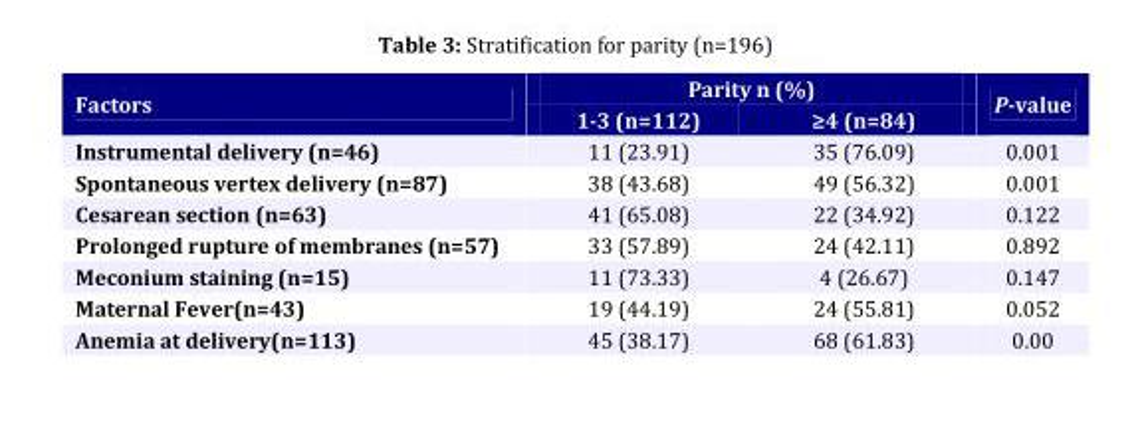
<table><thead><tr><td rowspan="2">Factors</td><td colspan="2">Parity n (%)</td><td rowspan="2">P-value</td></tr><tr><td>1-3 (n=112)</td><td>≥4 (n=84)</td></tr></thead><tbody><tr><td>Instrumental delivery (n=46)</td><td>11 (23.91)</td><td>35 (76.09)</td><td>0.001</td></tr><tr><td>Spontaneous vertex delivery (n=87)</td><td>38 (43.68)</td><td>49 (56.32)</td><td>0.001</td></tr><tr><td>Cesarean section (n=63)</td><td>41 (65.08)</td><td>22 (34.92)</td><td>0.122</td></tr><tr><td>Prolonged rupture of membranes (n=57)</td><td>33 (57.89)</td><td>24 (42.11)</td><td>0.892</td></tr><tr><td>Meconium staining (n=15)</td><td>11 (73.33)</td><td>4 (26.67)</td><td>0.147</td></tr><tr><td>Maternal Fever(n=43)</td><td>19 (44.19)</td><td>24 (55.81)</td><td>0.052</td></tr><tr><td>Anemia at delivery(n=113)</td><td>45 (38.17)</td><td>68 (61.83)</td><td>0.00</td></tr></tbody></table>